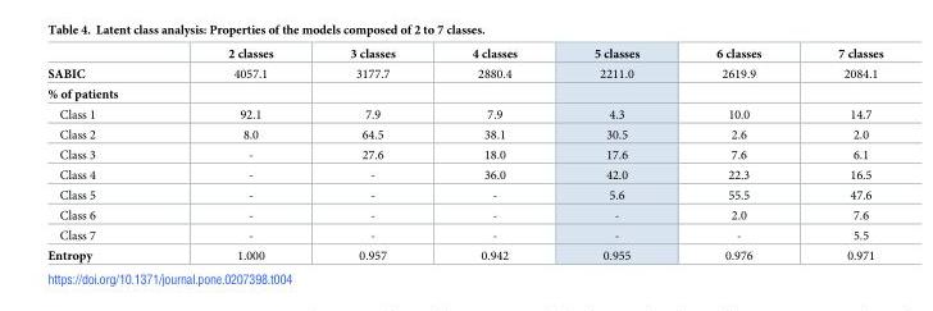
<table><thead><tr><td></td><td>2 classes</td><td>3 classes</td><td>4 classes</td><td>5 classes</td><td>6 classes</td><td>7 classes</td></tr></thead><tbody><tr><td>SABIC</td><td>4057.1</td><td>3177.7</td><td>2880.4</td><td>2211.0</td><td>2619.9</td><td>2084.1</td></tr><tr><td colspan="7">% of patients</td></tr><tr><td>Class 1</td><td>92.1</td><td>7.9</td><td>7.9</td><td>4.3</td><td>10.0</td><td>14.7</td></tr><tr><td>Class 2</td><td>8.0</td><td>64.5</td><td>38.1</td><td>30.5</td><td>2.6</td><td>2.0</td></tr><tr><td>Class 3</td><td>-</td><td>27.6</td><td>18.0</td><td>17.6</td><td>7.6</td><td>6.1</td></tr><tr><td>Class 4</td><td>-</td><td>-</td><td>36.0</td><td>42.0</td><td>22.3</td><td>16.5</td></tr><tr><td>Class 5</td><td>-</td><td>-</td><td>-</td><td>5.6</td><td>55.5</td><td>47.6</td></tr><tr><td>Class 6</td><td>-</td><td>-</td><td>-</td><td>-</td><td>2.0</td><td>7.6</td></tr><tr><td>Class 7</td><td>-</td><td>-</td><td>-</td><td>-</td><td>-</td><td>5.5</td></tr><tr><td>Entropy</td><td>1.000</td><td>0.957</td><td>0.942</td><td>0.955</td><td>0.976</td><td>0.971</td></tr></tbody></table>